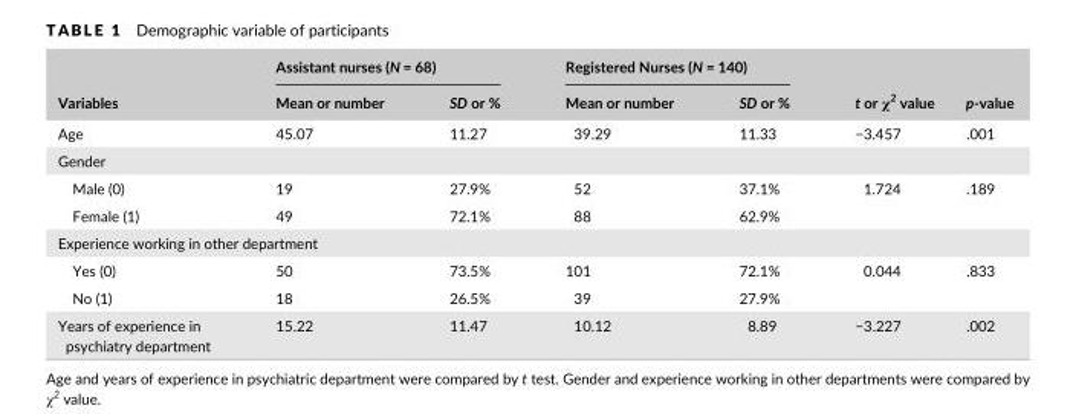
<table><thead><tr><td rowspan="2">Variables</td><td colspan="2">Assistant nurses (N = 68)</td><td colspan="2">Registered Nurses (N = 140)</td><td rowspan="2">t or χ<sup>2</sup> value</td><td rowspan="2">p- value</td></tr><tr><td>Mean or number</td><td>SD or %</td><td>Mean or number</td><td>SD or %</td></tr></thead><tbody><tr><td>Age</td><td>45.07</td><td>11.27</td><td>39.29</td><td>11.33</td><td>−3.457</td><td>.001</td></tr><tr><td colspan="7">Gender</td></tr><tr><td>Male (0)</td><td>19</td><td>27.9%</td><td>52</td><td>37.1%</td><td>1.724</td><td>.189</td></tr><tr><td>Female (1)</td><td>49</td><td>72.1%</td><td>88</td><td>62.9%</td><td></td><td></td></tr><tr><td colspan="7">Experience working in other department</td></tr><tr><td>Yes (0)</td><td>50</td><td>73.5%</td><td>101</td><td>72.1%</td><td>0.044</td><td>.833</td></tr><tr><td>No (1)</td><td>18</td><td>26.5%</td><td>39</td><td>27.9%</td><td></td><td></td></tr><tr><td>Years of experience in psychiatry department</td><td>15.22</td><td>11.47</td><td>10.12</td><td>8.89</td><td>−3.227</td><td>.002</td></tr></tbody></table>